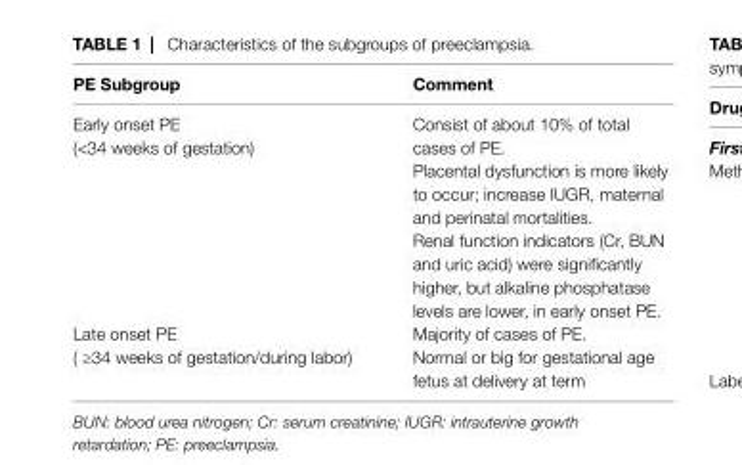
<table><thead><tr><td>Pe subgroup</td><td>comment</td></tr></thead><tbody><tr><td>Early onset PE (&lt;34 weeks of gestation)</td><td>Consist of about 10% of total cases of PE. Placental dysfunction is more likely to occur; increase IUGR, maternal and perinatal mortalities. Renal function indicators (Cr, BUN and uric acid) were significantly higher, but alkaline phosphatase levels are lower, in early onset PE.</td></tr><tr><td>Late onset PE ( ≥34 weeks of gestation/during labor)</td><td>Majority of cases of PE. Normal or big for gestational age fetus at delivery at term</td></tr></tbody></table>